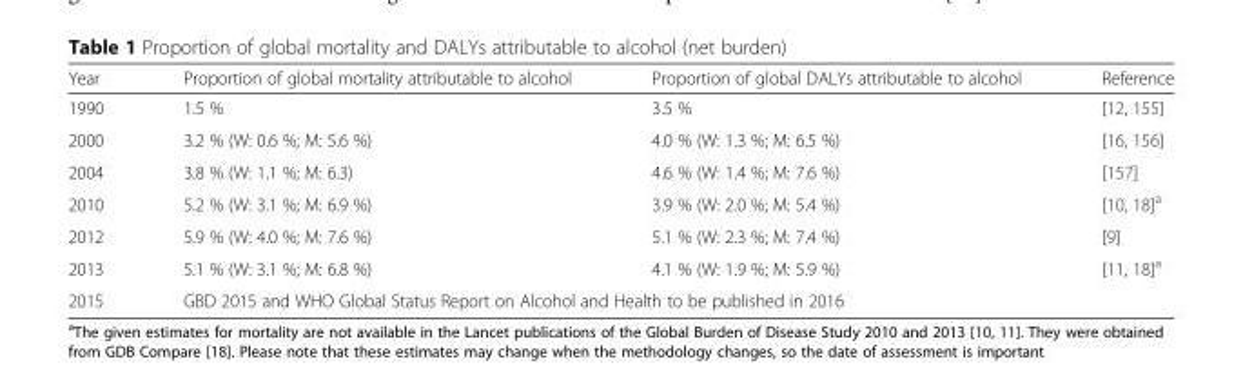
<table><thead><tr><td>Year</td><td>Proportion of global mortality attributable to alcohol</td><td>Proportion of global DALYs attributable to alcohol</td><td>Reference</td></tr></thead><tbody><tr><td>1990</td><td>1.5 %</td><td>3.5 %</td><td>[12, 155]</td></tr><tr><td>2000</td><td>3.2 % (W: 0.6 %; M: 5.6 %)</td><td>4.0 % (W: 1.3 %; M: 6.5 %)</td><td>[16, 156]</td></tr><tr><td>2004</td><td>3.8 % (W: 1.1 %; M: 6.3)</td><td>4.6 % (W: 1.4 %; M: 7.6 %)</td><td>[157]</td></tr><tr><td>2010</td><td>5.2 % (W: 3.1 %; M: 6.9 %)</td><td>3.9 % (W: 2.0 %; M: 5.4 %)</td><td>[10, 18]<sup>a</sup></td></tr><tr><td>2012</td><td>5.9 % (W: 4.0 %; M: 7.6 %)</td><td>5.1 % (W: 2.3 %; M: 7.4 %)</td><td>[9]</td></tr><tr><td>2013</td><td>5.1 % (W: 3.1 %; M: 6.8 %)</td><td>4.1 % (W: 1.9 %; M: 5.9 %)</td><td>[11, 18]<sup>a</sup></td></tr><tr><td>2015</td><td colspan="3">GBD 2015 and WHO Global Status Report on Alcohol and Health to be published in 2016</td></tr></tbody></table>